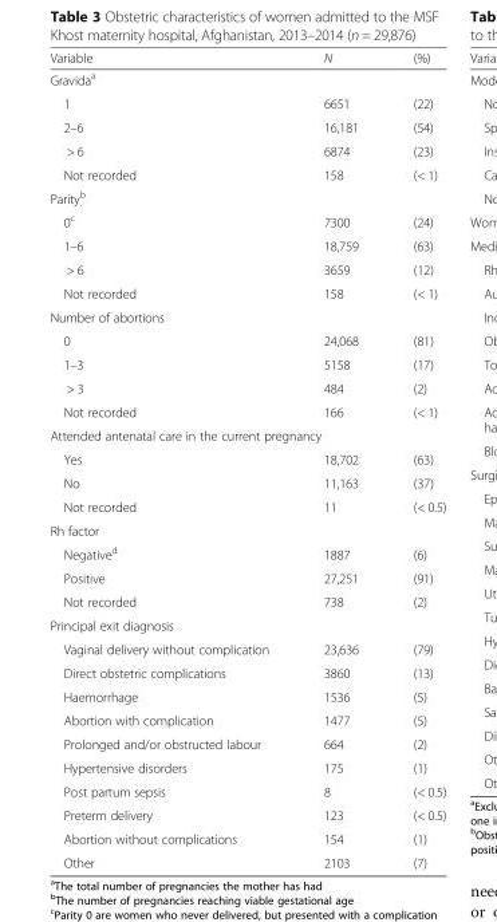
<table><thead><tr><td>Variable</td><td>N</td><td>(%)</td></tr></thead><tbody><tr><td colspan="3">Gravida<sup>a</sup></td></tr><tr><td>1</td><td>6651</td><td>(22)</td></tr><tr><td>2–6</td><td>16,181</td><td>(54)</td></tr><tr><td>&gt; 6</td><td>6874</td><td>(23)</td></tr><tr><td>Not recorded</td><td>158</td><td>(&lt; 1)</td></tr><tr><td colspan="3">Parity<sup>b</sup></td></tr><tr><td>0<sup>c</sup></td><td>7300</td><td>(24)</td></tr><tr><td>1–6</td><td>18,759</td><td>(63)</td></tr><tr><td>&gt; 6</td><td>3659</td><td>(12)</td></tr><tr><td>Not recorded</td><td>158</td><td>(&lt; 1)</td></tr><tr><td colspan="3">Number of abortions</td></tr><tr><td>0</td><td>24,068</td><td>(81)</td></tr><tr><td>1–3</td><td>5158</td><td>(17)</td></tr><tr><td>&gt; 3</td><td>484</td><td>(2)</td></tr><tr><td>Not recorded</td><td>166</td><td>(&lt; 1)</td></tr><tr><td colspan="3">Attended antenatal care in the current pregnancy</td></tr><tr><td>Yes</td><td>18,702</td><td>(63)</td></tr><tr><td>No</td><td>11,163</td><td>(37)</td></tr><tr><td>Not recorded</td><td>11</td><td>(&lt; 0.5)</td></tr><tr><td colspan="3">Rh factor</td></tr><tr><td>Negative<sup>d</sup></td><td>1887</td><td>(6)</td></tr><tr><td>Positive</td><td>27,251</td><td>(91)</td></tr><tr><td>Not recorded</td><td>738</td><td>(2)</td></tr><tr><td colspan="3">Principal exit diagnosis</td></tr><tr><td>Vaginal delivery without complication</td><td>23,636</td><td>(79)</td></tr><tr><td>Direct obstetric complications</td><td>3860</td><td>(13)</td></tr><tr><td>Haemorrhage</td><td>1536</td><td>(5)</td></tr><tr><td>Abortion with complication</td><td>1477</td><td>(5)</td></tr><tr><td>Prolonged and/or obstructed labour</td><td>664</td><td>(2)</td></tr><tr><td>Hypertensive disorders</td><td>175</td><td>(1)</td></tr><tr><td>Post partum sepsis</td><td>8</td><td>(&lt; 0.5)</td></tr><tr><td>Preterm delivery</td><td>123</td><td>(&lt; 0.5)</td></tr><tr><td>Abortion without complications</td><td>154</td><td>(1)</td></tr><tr><td>Other</td><td>2103</td><td>(7)</td></tr></tbody></table>